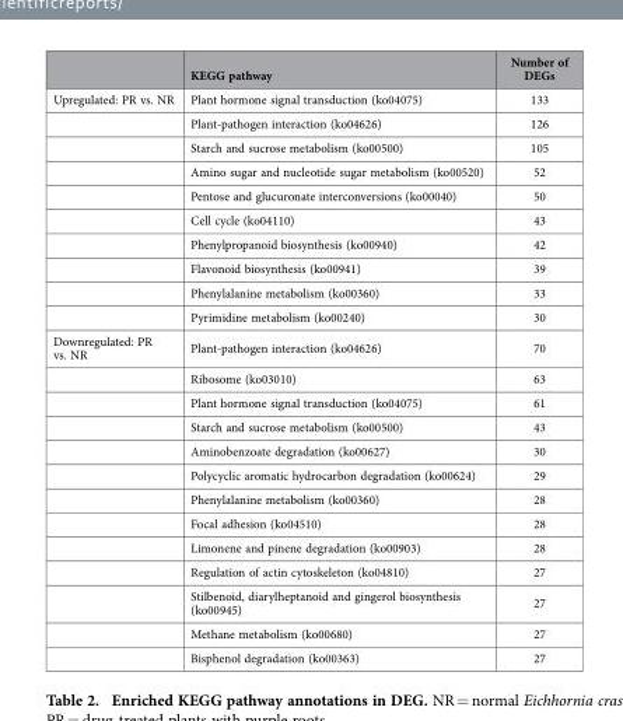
<table><thead><tr><td></td><td>KEGG pathway</td><td>Number of DEGs</td></tr></thead><tbody><tr><td rowspan="10">Upregulated: PR vs. NR</td><td>Plant hormone signal transduction (ko04075)</td><td>133</td></tr><tr><td>Plant-pathogen interaction (ko04626)</td><td>126</td></tr><tr><td>Starch and sucrose metabolism (ko00500)</td><td>105</td></tr><tr><td>Amino sugar and nucleotide sugar metabolism (ko00520)</td><td>52</td></tr><tr><td>Pentose and glucuronate interconversions (ko00040)</td><td>50</td></tr><tr><td>Cell cycle (ko04110)</td><td>43</td></tr><tr><td>Phenylpropanoid biosynthesis (ko00940)</td><td>42</td></tr><tr><td>Flavonoid biosynthesis (ko00941)</td><td>39</td></tr><tr><td>Phenylalanine metabolism (ko00360)</td><td>33</td></tr><tr><td>Pyrimidine metabolism (ko00240)</td><td>30</td></tr><tr><td rowspan="13">Downregulated: PR vs. NR</td><td>Plant-pathogen interaction (ko04626)</td><td>70</td></tr><tr><td>Ribosome (ko03010)</td><td>63</td></tr><tr><td>Plant hormone signal transduction (ko04075)</td><td>61</td></tr><tr><td>Starch and sucrose metabolism (ko00500)</td><td>43</td></tr><tr><td>Aminobenzoate degradation (ko00627)</td><td>30</td></tr><tr><td>Polycyclic aromatic hydrocarbon degradation (ko00624)</td><td>29</td></tr><tr><td>Phenylalanine metabolism (ko00360)</td><td>28</td></tr><tr><td>Focal adhesion (ko04510)</td><td>28</td></tr><tr><td>Limonene and pinene degradation (ko00903)</td><td>28</td></tr><tr><td>Regulation of actin cytoskeleton (ko04810)</td><td>27</td></tr><tr><td>Stilbenoid, diarylheptanoid and gingerol biosynthesis (ko00945)</td><td>27</td></tr><tr><td>Methane metabolism (ko00680)</td><td>27</td></tr><tr><td>Bisphenol degradation (ko00363)</td><td>27</td></tr></tbody></table>